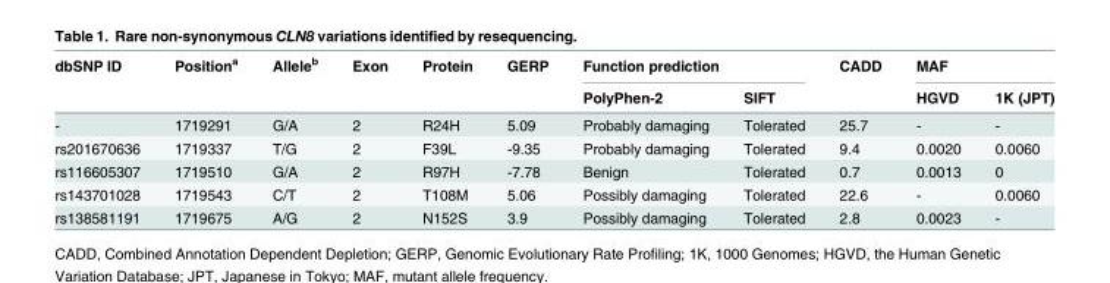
<table><thead><tr><td rowspan="2">dbSNP ID</td><td rowspan="2">Position<sup>a</sup></td><td rowspan="2">Allele<sup>b</sup></td><td rowspan="2">Exon</td><td rowspan="2">Protein</td><td rowspan="2">GERP</td><td colspan="2">Function prediction</td><td rowspan="2">CADD</td><td colspan="2">MAF</td></tr><tr><td>PolyPhen-2</td><td>SIFT</td><td>HGVD</td><td>1K (JPT)</td></tr></thead><tbody><tr><td>-</td><td>1719291</td><td>G/A</td><td>2</td><td>R24H</td><td>5.09</td><td>Probably damaging</td><td>Tolerated</td><td>25.7</td><td>-</td><td>-</td></tr><tr><td>rs201670636</td><td>1719337</td><td>T/G</td><td>2</td><td>F39L</td><td>-9.35</td><td>Probably damaging</td><td>Tolerated</td><td>9.4</td><td>0.0020</td><td>0.0060</td></tr><tr><td>rs116605307</td><td>1719510</td><td>G/A</td><td>2</td><td>R97H</td><td>-7.78</td><td>Benign</td><td>Tolerated</td><td>0.7</td><td>0.0013</td><td>0</td></tr><tr><td>rs143701028</td><td>1719543</td><td>C/T</td><td>2</td><td>T108M</td><td>5.06</td><td>Possibly damaging</td><td>Tolerated</td><td>22.6</td><td>-</td><td>0.0060</td></tr><tr><td>rs138581191</td><td>1719675</td><td>A/G</td><td>2</td><td>N152S</td><td>3.9</td><td>Possibly damaging</td><td>Tolerated</td><td>2.8</td><td>0.0023</td><td>-</td></tr></tbody></table>